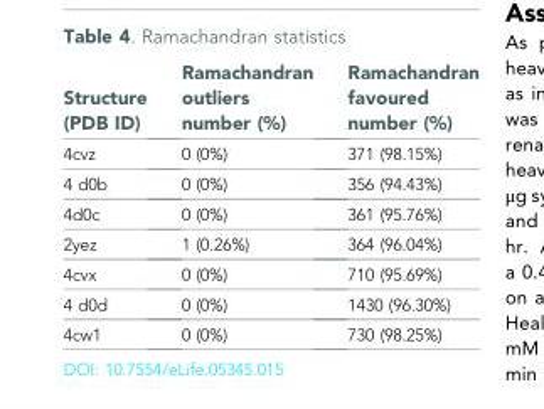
<table><thead><tr><td>Structure (PDB ID)</td><td>Ramachandran outliers number (%)</td><td>Ramachandran favoured number (%)</td></tr></thead><tbody><tr><td>4cvz</td><td>0 (0%)</td><td>371 (98.15%)</td></tr><tr><td>4 d0b</td><td>0 (0%)</td><td>356 (94.43%)</td></tr><tr><td>4d0c</td><td>0 (0%)</td><td>361 (95.76%)</td></tr><tr><td>2yez</td><td>1 (0.26%)</td><td>364 (96.04%)</td></tr><tr><td>4cvx</td><td>0 (0%)</td><td>710 (95.69%)</td></tr><tr><td>4 d0d</td><td>0 (0%)</td><td>1430 (96.30%)</td></tr><tr><td>4cw1</td><td>0 (0%)</td><td>730 (98.25%)</td></tr></tbody></table>